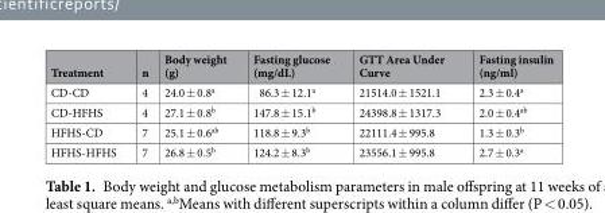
<table><thead><tr><td>Treatment</td><td>n</td><td>Body weight (g)</td><td>Fasting glucose (mg/dL)</td><td>GTT Area Under Curve</td><td>Fasting insulin (ng/ml)</td></tr></thead><tbody><tr><td>CD-CD</td><td>4</td><td>24.0 ± 0.8<sup>a</sup></td><td>86.3 ± 12.1<sup>a</sup></td><td>21514.0 ± 1521.1</td><td>2.3 ± 0.4<sup>a</sup></td></tr><tr><td>CD-HFHS</td><td>4</td><td>27.1 ± 0.8<sup>b</sup></td><td>147.8 ± 15.1<sup>b</sup></td><td>24398.8 ± 1317.3</td><td>2.0 ± 0.4<sup>ab</sup></td></tr><tr><td>HFHS-CD</td><td>7</td><td>25.1 ± 0.6<sup>ab</sup></td><td>118.8 ± 9.3<sup>b</sup></td><td>22111.4 ± 995.8</td><td>1.3 ± 0.3<sup>b</sup></td></tr><tr><td>HFHS-HFHS</td><td>7</td><td>26.8 ± 0.5<sup>b</sup></td><td>124.2 ± 8.3<sup>b</sup></td><td>23556.1 ± 995.8</td><td>2.7 ± 0.3<sup>a</sup></td></tr></tbody></table>